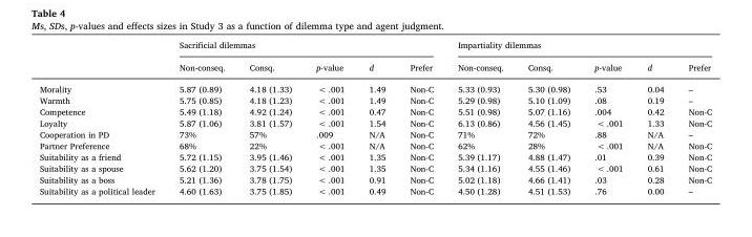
<table><thead><tr><td rowspan="2"></td><td colspan="5">Sacrificial dilemmas</td><td colspan="5">Impartiality dilemmas</td></tr><tr><td>Non-conseq.</td><td>Consq.</td><td>p-value</td><td>d</td><td>Prefer</td><td>Non-conseq.</td><td>Consq.</td><td>p-value</td><td>d</td><td>Prefer</td></tr></thead><tbody><tr><td>Morality</td><td>5.87 (0.89)</td><td>4.18 (1.33)</td><td>&lt; .001</td><td>1.49</td><td>Non-C</td><td>5.33 (0.93)</td><td>5.30 (0.98)</td><td>.53</td><td>0.04</td><td>–</td></tr><tr><td>Warmth</td><td>5.75 (0.85)</td><td>4.18 (1.23)</td><td>&lt; .001</td><td>1.49</td><td>Non-C</td><td>5.29 (0.98)</td><td>5.10 (1.09)</td><td>.08</td><td>0.19</td><td>–</td></tr><tr><td>Competence</td><td>5.49 (1.18)</td><td>4.92 (1.24)</td><td>&lt; .001</td><td>0.47</td><td>Non-C</td><td>5.51 (0.98)</td><td>5.07 (1.16)</td><td>.004</td><td>0.42</td><td>Non-C</td></tr><tr><td>Loyalty</td><td>5.87 (1.06)</td><td>3.81 (1.57)</td><td>&lt; .001</td><td>1.54</td><td>Non-C</td><td>6.13 (0.86)</td><td>4.56 (1.45)</td><td>&lt; .001</td><td>1.33</td><td>Non-C</td></tr><tr><td>Cooperation in PD</td><td>73%</td><td>57%</td><td>.009</td><td>N/A</td><td>Non-C</td><td>71%</td><td>72%</td><td>.88</td><td>N/A</td><td>–</td></tr><tr><td>Partner Preference</td><td>68%</td><td>22%</td><td>&lt; .001</td><td>N/A</td><td>Non-C</td><td>62%</td><td>28%</td><td>&lt; .001</td><td>N/A</td><td>Non-C</td></tr><tr><td>Suitability as a friend</td><td>5.72 (1.15)</td><td>3.95 (1.46)</td><td>&lt; .001</td><td>1.35</td><td>Non-C</td><td>5.39 (1.17)</td><td>4.88 (1.47)</td><td>.01</td><td>0.39</td><td>Non-C</td></tr><tr><td>Suitability as a spouse</td><td>5.62 (1.20)</td><td>3.75 (1.54)</td><td>&lt; .001</td><td>1.35</td><td>Non-C</td><td>5.34 (1.16)</td><td>4.55 (1.46)</td><td>&lt; .001</td><td>0.61</td><td>Non-C</td></tr><tr><td>Suitability as a boss</td><td>5.21 (1.36)</td><td>3.78 (1.75)</td><td>&lt; .001</td><td>0.91</td><td>Non-C</td><td>5.02 (1.18)</td><td>4.66 (1.41)</td><td>.03</td><td>0.28</td><td>Non-C</td></tr><tr><td>Suitability as a political leader</td><td>4.60 (1.63)</td><td>3.75 (1.85)</td><td>&lt; .001</td><td>0.49</td><td>Non-C</td><td>4.50 (1.28)</td><td>4.51 (1.53)</td><td>.76</td><td>0.00</td><td>–</td></tr></tbody></table>